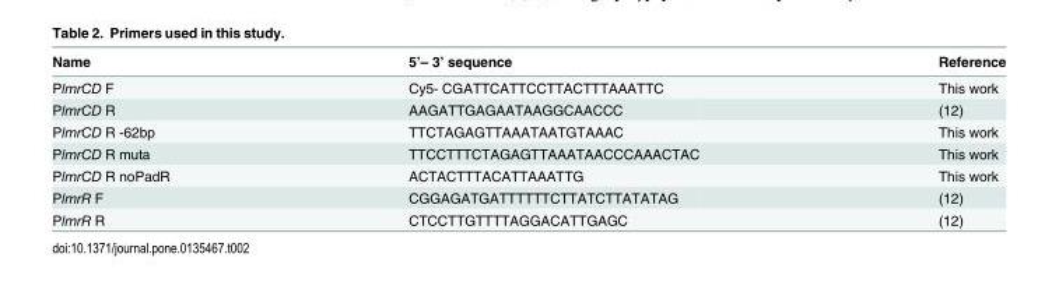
<table><thead><tr><td>Name</td><td>5’– 3’ sequence</td><td>Reference</td></tr></thead><tbody><tr><td>PlmrCD F</td><td>Cy5- CGATTCATTCCTTACTTTAAATTC</td><td>This work</td></tr><tr><td>PlmrCD R</td><td>AAGATTGAGAATAAGGCAACCC</td><td>(12)</td></tr><tr><td>PlmrCD R -62bp</td><td>TTCTAGAGTTAAATAATGTAAAC</td><td>This work</td></tr><tr><td>PlmrCD R muta</td><td>TTCCTTTCTAGAGTTAAATAACCCAAACTAC</td><td>This work</td></tr><tr><td>PlmrCD R noPadR</td><td>ACTACTTTACATTAAATTG</td><td>This work</td></tr><tr><td>PlmrR F</td><td>CGGAGATGATTTTTTCTTATCTTATATAG</td><td>(12)</td></tr><tr><td>PlmrR R</td><td>CTCCTTGTTTTAGGACATTGAGC</td><td>(12)</td></tr></tbody></table>